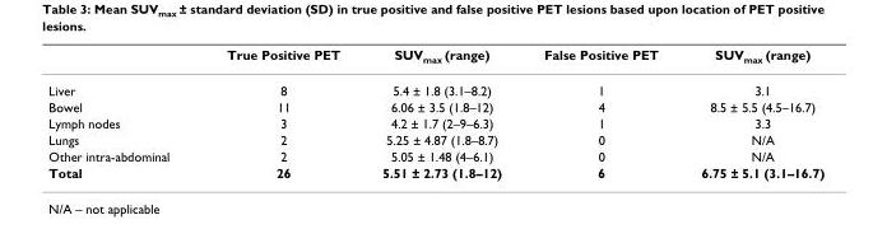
<table><thead><tr><td></td><td>True Positive PET</td><td>SUV<sub>max</sub> (range)</td><td>False Positive PET</td><td>SUV<sub>max</sub> (range)</td></tr></thead><tbody><tr><td>Liver</td><td>8</td><td>5.4 ± 1.8 (3.1–8.2)</td><td>1</td><td>3.1</td></tr><tr><td>Bowel</td><td>11</td><td>6.06 ± 3.5 (1.8–12)</td><td>4</td><td>8.5 ± 5.5 (4.5–16.7)</td></tr><tr><td>Lymph nodes</td><td>3</td><td>4.2 ± 1.7 (2–9–6.3)</td><td>1</td><td>3.3</td></tr><tr><td>Lungs</td><td>2</td><td>5.25 ± 4.87 (1.8–8.7)</td><td>0</td><td>N/A</td></tr><tr><td>Other intra-abdominal</td><td>2</td><td>5.05 ± 1.48 (4–6.1)</td><td>0</td><td>N/A</td></tr><tr><td>Total</td><td>26</td><td>5.51 ± 2.73 (1.8–12)</td><td>6</td><td>6.75 ± 5.1 (3.1–16.7)</td></tr></tbody></table>